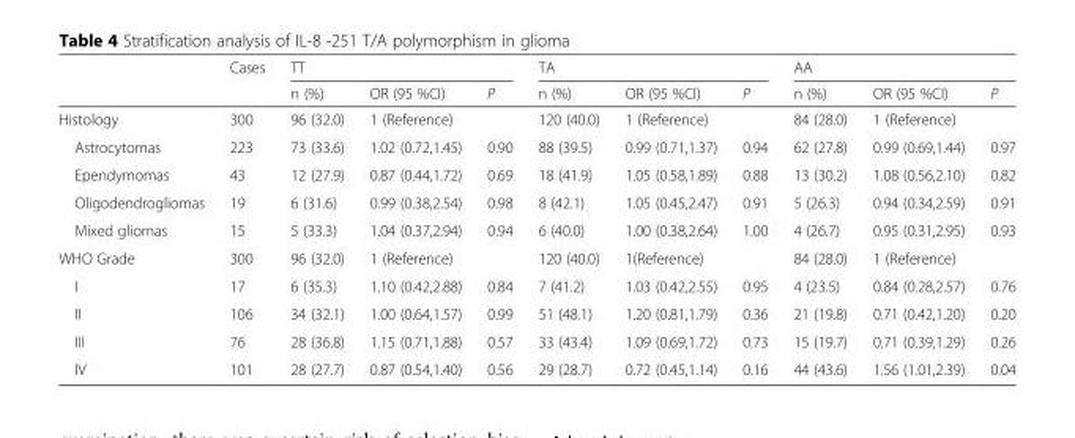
<table><thead><tr><td rowspan="2"></td><td rowspan="2">Cases</td><td colspan="3">TT</td><td colspan="3">TA</td><td colspan="3">AA</td></tr><tr><td>n (%)</td><td>OR (95 %CI)</td><td>P</td><td>n (%)</td><td>OR (95 %CI)</td><td>P</td><td>n (%)</td><td>OR (95 %CI)</td><td>P</td></tr></thead><tbody><tr><td>Histology</td><td>300</td><td>96 (32.0)</td><td>1 (Reference)</td><td></td><td>120 (40.0)</td><td>1 (Reference)</td><td></td><td>84 (28.0)</td><td>1 (Reference)</td><td></td></tr><tr><td>Astrocytomas</td><td>223</td><td>73 (33.6)</td><td>1.02 (0.72,1.45)</td><td>0.90</td><td>88 (39.5)</td><td>0.99 (0.71,1.37)</td><td>0.94</td><td>62 (27.8)</td><td>0.99 (0.69,1.44)</td><td>0.97</td></tr><tr><td>Ependymomas</td><td>43</td><td>12 (27.9)</td><td>0.87 (0.44,1.72)</td><td>0.69</td><td>18 (41.9)</td><td>1.05 (0.58,1.89)</td><td>0.88</td><td>13 (30.2)</td><td>1.08 (0.56,2.10)</td><td>0.82</td></tr><tr><td>Oligodendrogliomas</td><td>19</td><td>6 (31.6)</td><td>0.99 (0.38,2.54)</td><td>0.98</td><td>8 (42.1)</td><td>1.05 (0.45,2.47)</td><td>0.91</td><td>5 (26.3)</td><td>0.94 (0.34,2.59)</td><td>0.91</td></tr><tr><td>Mixed gliomas</td><td>15</td><td>5 (33.3)</td><td>1.04 (0.37,2.94)</td><td>0.94</td><td>6 (40.0)</td><td>1.00 (0.38,2.64)</td><td>1.00</td><td>4 (26.7)</td><td>0.95 (0.31,2.95)</td><td>0.93</td></tr><tr><td>WHO Grade</td><td>300</td><td>96 (32.0)</td><td>1 (Reference)</td><td></td><td>120 (40.0)</td><td>1(Reference)</td><td></td><td>84 (28.0)</td><td>1 (Reference)</td><td></td></tr><tr><td>I</td><td>17</td><td>6 (35.3)</td><td>1.10 (0.42,2.88)</td><td>0.84</td><td>7 (41.2)</td><td>1.03 (0.42,2.55)</td><td>0.95</td><td>4 (23.5)</td><td>0.84 (0.28,2.57)</td><td>0.76</td></tr><tr><td>II</td><td>106</td><td>34 (32.1)</td><td>1.00 (0.64,1.57)</td><td>0.99</td><td>51 (48.1)</td><td>1.20 (0.81,1.79)</td><td>0.36</td><td>21 (19.8)</td><td>0.71 (0.42,1.20)</td><td>0.20</td></tr><tr><td>III</td><td>76</td><td>28 (36.8)</td><td>1.15 (0.71,1.88)</td><td>0.57</td><td>33 (43.4)</td><td>1.09 (0.69,1.72)</td><td>0.73</td><td>15 (19.7)</td><td>0.71 (0.39,1.29)</td><td>0.26</td></tr><tr><td>IV</td><td>101</td><td>28 (27.7)</td><td>0.87 (0.54,1.40)</td><td>0.56</td><td>29 (28.7)</td><td>0.72 (0.45,1.14)</td><td>0.16</td><td>44 (43.6)</td><td>1.56 (1.01,2.39)</td><td>0.04</td></tr></tbody></table>